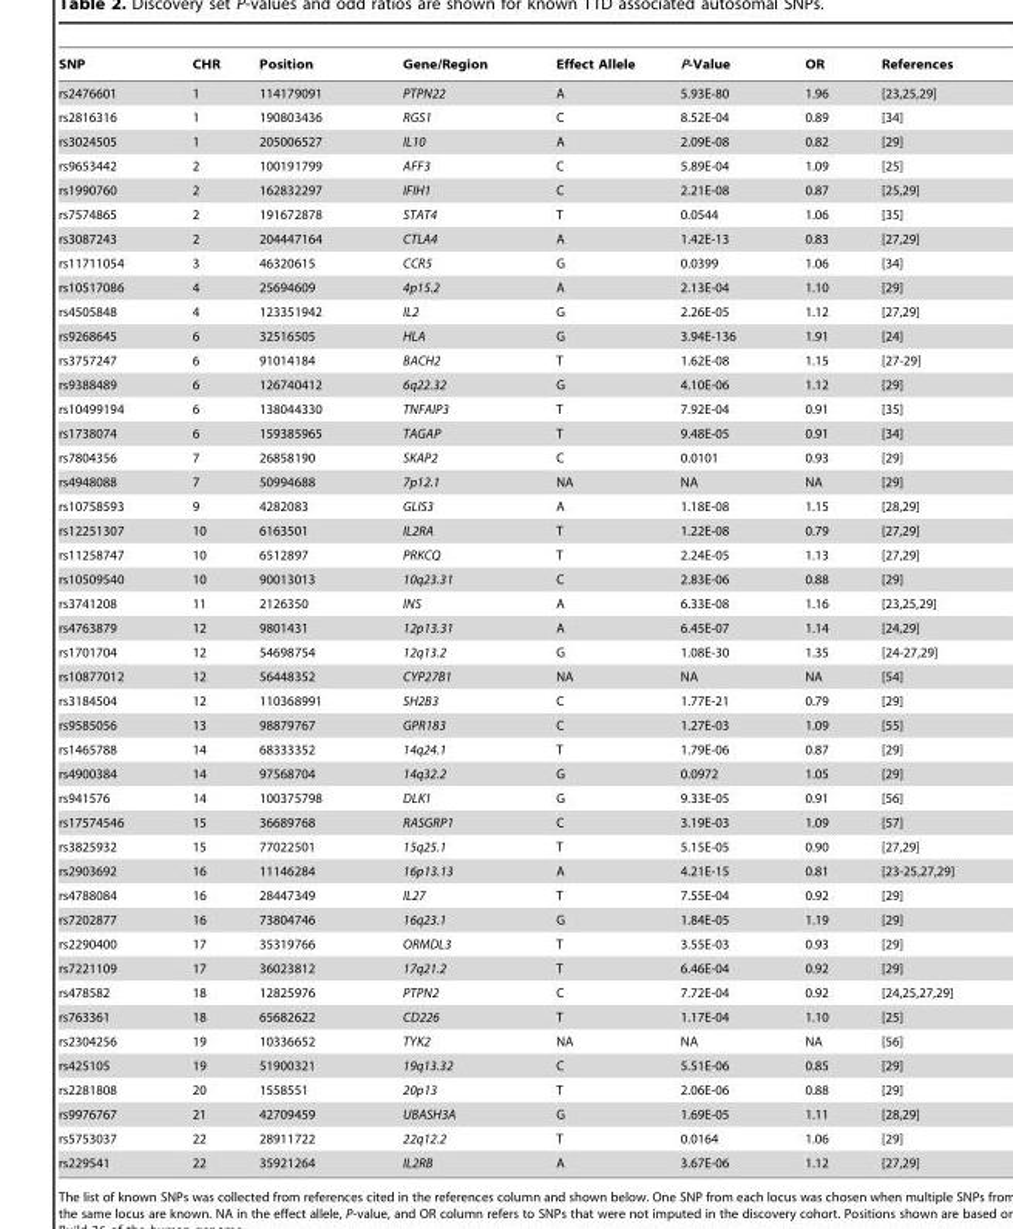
<table><thead><tr><td>SNP</td><td>CHR</td><td>Position</td><td>Gene/Region</td><td>Effect Allele</td><td>P-Value</td><td>OR</td><td>References</td></tr></thead><tbody><tr><td>rs2476601</td><td>1</td><td>114179091</td><td>PTPN22</td><td>A</td><td>5.93E-80</td><td>1.96</td><td>[23,25,29]</td></tr><tr><td>rs2816316</td><td>1</td><td>190803436</td><td>RGS1</td><td>C</td><td>8.52E-04</td><td>0.89</td><td>[34]</td></tr><tr><td>rs3024505</td><td>1</td><td>205006527</td><td>IL10</td><td>A</td><td>2.09E-08</td><td>0.82</td><td>[29]</td></tr><tr><td>rs9653442</td><td>2</td><td>100191799</td><td>AFF3</td><td>C</td><td>5.89E-04</td><td>1.09</td><td>[25]</td></tr><tr><td>rs1990760</td><td>2</td><td>162832297</td><td>IFIH1</td><td>C</td><td>2.21E-08</td><td>0.87</td><td>[25,29]</td></tr><tr><td>rs7574865</td><td>2</td><td>191672878</td><td>STAT4</td><td>T</td><td>0.0544</td><td>1.06</td><td>[35]</td></tr><tr><td>rs3087243</td><td>2</td><td>204447164</td><td>CTLA4</td><td>A</td><td>1.42E-13</td><td>0.83</td><td>[27,29]</td></tr><tr><td>rs11711054</td><td>3</td><td>46320615</td><td>CCR5</td><td>G</td><td>0.0399</td><td>1.06</td><td>[34]</td></tr><tr><td>rs10517086</td><td>4</td><td>25694609</td><td>4p15.2</td><td>A</td><td>2.13E-04</td><td>1.10</td><td>[29]</td></tr><tr><td>rs4505848</td><td>4</td><td>123351942</td><td>IL2</td><td>G</td><td>2.26E-05</td><td>1.12</td><td>[27,29]</td></tr><tr><td>rs9268645</td><td>6</td><td>32516505</td><td>HLA</td><td>G</td><td>3.94E-136</td><td>1.91</td><td>[24]</td></tr><tr><td>rs3757247</td><td>6</td><td>91014184</td><td>BACH2</td><td>T</td><td>1.62E-08</td><td>1.15</td><td>[27-29]</td></tr><tr><td>rs9388489</td><td>6</td><td>126740412</td><td>6q22.32</td><td>G</td><td>4.10E-06</td><td>1.12</td><td>[29]</td></tr><tr><td>rs10499194</td><td>6</td><td>138044330</td><td>TNFAIP3</td><td>T</td><td>7.92E-04</td><td>0.91</td><td>[35]</td></tr><tr><td>rs1738074</td><td>6</td><td>159385965</td><td>TAGAP</td><td>T</td><td>9.48E-05</td><td>0.91</td><td>[34]</td></tr><tr><td>rs7804356</td><td>7</td><td>26858190</td><td>SKAP2</td><td>C</td><td>0.0101</td><td>0.93</td><td>[29]</td></tr><tr><td>rs4948088</td><td>7</td><td>50994688</td><td>7p12.1</td><td>NA</td><td>NA</td><td>NA</td><td>[29]</td></tr><tr><td>rs10758593</td><td>9</td><td>4282083</td><td>GLIS3</td><td>A</td><td>1.18E-08</td><td>1.15</td><td>[28,29]</td></tr><tr><td>rs12251307</td><td>10</td><td>6163501</td><td>IL2RA</td><td>T</td><td>1.22E-08</td><td>0.79</td><td>[27,29]</td></tr><tr><td>rs11258747</td><td>10</td><td>6512897</td><td>PRKCQ</td><td>T</td><td>2.24E-05</td><td>1.13</td><td>[27,29]</td></tr><tr><td>rs10509540</td><td>10</td><td>90013013</td><td>10q23.31</td><td>C</td><td>2.83E-06</td><td>0.88</td><td>[29]</td></tr><tr><td>rs3741208</td><td>11</td><td>2126350</td><td>INS</td><td>A</td><td>6.33E-08</td><td>1.16</td><td>[23,25,29]</td></tr><tr><td>rs4763879</td><td>12</td><td>9801431</td><td>12p13.31</td><td>A</td><td>6.45E-07</td><td>1.14</td><td>[24,29]</td></tr><tr><td>rs1701704</td><td>12</td><td>54698754</td><td>12q13.2</td><td>G</td><td>1.08E-30</td><td>1.35</td><td>[24-27,29]</td></tr><tr><td>rs10877012</td><td>12</td><td>56448352</td><td>CYP27B1</td><td>NA</td><td>NA</td><td>NA</td><td>[54]</td></tr><tr><td>rs3184504</td><td>12</td><td>110368991</td><td>SH2B3</td><td>C</td><td>1.77E-21</td><td>0.79</td><td>[29]</td></tr><tr><td>rs9585056</td><td>13</td><td>98879767</td><td>GPR183</td><td>C</td><td>1.27E-03</td><td>1.09</td><td>[55]</td></tr><tr><td>rs1465788</td><td>14</td><td>68333352</td><td>14q24.1</td><td>T</td><td>1.79E-06</td><td>0.87</td><td>[29]</td></tr><tr><td>rs4900384</td><td>14</td><td>97568704</td><td>14q32.2</td><td>G</td><td>0.0972</td><td>1.05</td><td>[29]</td></tr><tr><td>rs941576</td><td>14</td><td>100375798</td><td>DLK1</td><td>G</td><td>9.33E-05</td><td>0.91</td><td>[56]</td></tr><tr><td>rs17574546</td><td>15</td><td>36689768</td><td>RASGRP1</td><td>C</td><td>3.19E-03</td><td>1.09</td><td>[57]</td></tr><tr><td>rs3825932</td><td>15</td><td>77022501</td><td>15q25.1</td><td>T</td><td>5.15E-05</td><td>0.90</td><td>[27,29]</td></tr><tr><td>rs2903692</td><td>16</td><td>11146284</td><td>16p13.13</td><td>A</td><td>4.21E-15</td><td>0.81</td><td>[23-25,27,29]</td></tr><tr><td>rs4788084</td><td>16</td><td>28447349</td><td>IL27</td><td>T</td><td>7.55E-04</td><td>0.92</td><td>[29]</td></tr><tr><td>rs7202877</td><td>16</td><td>73804746</td><td>16q23.1</td><td>G</td><td>1.84E-05</td><td>1.19</td><td>[29]</td></tr><tr><td>rs2290400</td><td>17</td><td>35319766</td><td>ORMDL3</td><td>T</td><td>3.55E-03</td><td>0.93</td><td>[29]</td></tr><tr><td>rs7221109</td><td>17</td><td>36023812</td><td>17q21.2</td><td>T</td><td>6.46E-04</td><td>0.92</td><td>[29]</td></tr><tr><td>rs478582</td><td>18</td><td>12825976</td><td>PTPN2</td><td>C</td><td>7.72E-04</td><td>0.92</td><td>[24,25,27,29]</td></tr><tr><td>rs763361</td><td>18</td><td>65682622</td><td>CD226</td><td>T</td><td>1.17E-04</td><td>1.10</td><td>[25]</td></tr><tr><td>rs2304256</td><td>19</td><td>10336652</td><td>TYK2</td><td>NA</td><td>NA</td><td>NA</td><td>[56]</td></tr><tr><td>rs425105</td><td>19</td><td>51900321</td><td>19q13.32</td><td>C</td><td>5.51E-06</td><td>0.85</td><td>[29]</td></tr><tr><td>rs2281808</td><td>20</td><td>1558551</td><td>20p13</td><td>T</td><td>2.06E-06</td><td>0.88</td><td>[29]</td></tr><tr><td>rs9976767</td><td>21</td><td>42709459</td><td>UBASH3A</td><td>G</td><td>1.69E-05</td><td>1.11</td><td>[28,29]</td></tr><tr><td>rs5753037</td><td>22</td><td>28911722</td><td>22q12.2</td><td>T</td><td>0.0164</td><td>1.06</td><td>[29]</td></tr><tr><td>rs229541</td><td>22</td><td>35921264</td><td>IL2RB</td><td>A</td><td>3.67E-06</td><td>1.12</td><td>[27,29]</td></tr></tbody></table>